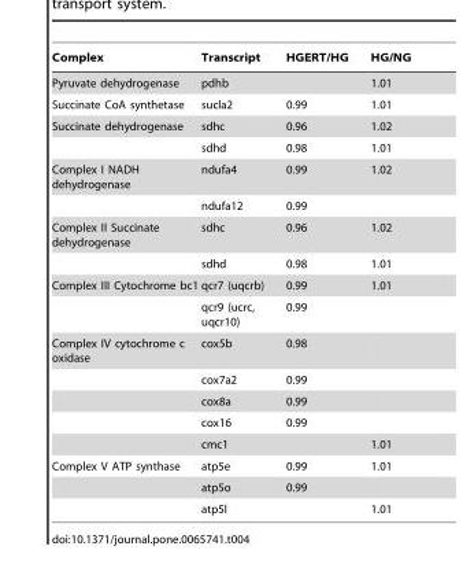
<table><thead><tr><td>Complex</td><td>Transcript</td><td>HGERT/HG</td><td>HG/NG</td></tr></thead><tbody><tr><td>Pyruvate dehydrogenase</td><td>pdhb</td><td></td><td>1.01</td></tr><tr><td>Succinate CoA synthetase</td><td>sucla2</td><td>0.99</td><td>1.01</td></tr><tr><td rowspan="2">Succinate dehydrogenase</td><td>sdhc</td><td>0.96</td><td>1.02</td></tr><tr><td>sdhd</td><td>0.98</td><td>1.01</td></tr><tr><td rowspan="2">Complex I NADH dehydrogenase</td><td>ndufa4</td><td>0.99</td><td>1.02</td></tr><tr><td>ndufa12</td><td>0.99</td><td></td></tr><tr><td rowspan="2">Complex II Succinate dehydrogenase</td><td>sdhc</td><td>0.96</td><td>1.02</td></tr><tr><td>sdhd</td><td>0.98</td><td>1.01</td></tr><tr><td rowspan="2">Complex III Cytochrome bc1</td><td>qcr7 (uqcrb)</td><td>0.99</td><td>1.01</td></tr><tr><td>qcr9 (ucrc, uqcr10)</td><td>0.99</td><td></td></tr><tr><td rowspan="5">Complex IV cytochrome c oxidase</td><td>cox5b</td><td>0.98</td><td></td></tr><tr><td>cox7a2</td><td>0.99</td><td></td></tr><tr><td>cox8a</td><td>0.99</td><td></td></tr><tr><td>cox16</td><td>0.99</td><td></td></tr><tr><td>cmc1</td><td></td><td>1.01</td></tr><tr><td rowspan="3">Complex V ATP synthase</td><td>atp5e</td><td>0.99</td><td>1.01</td></tr><tr><td>atp5o</td><td>0.99</td><td></td></tr><tr><td>atp5l</td><td></td><td>1.01</td></tr></tbody></table>